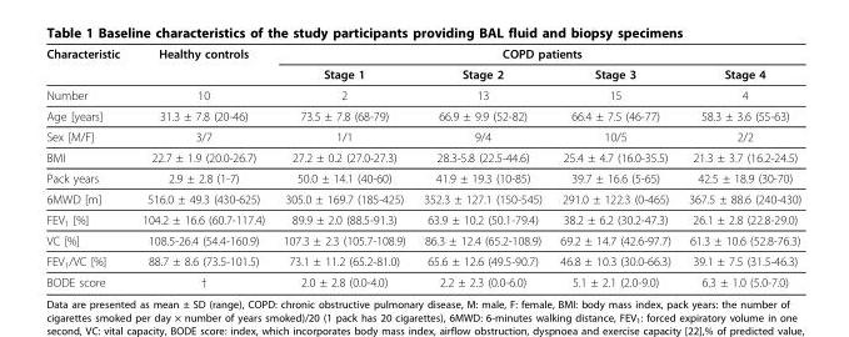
<table><thead><tr><td rowspan="2">Characteristic</td><td rowspan="2">Healthy controls</td><td colspan="4">COPD patients</td></tr><tr><td>Stage 1</td><td>Stage 2</td><td>Stage 3</td><td>Stage 4</td></tr></thead><tbody><tr><td>Number</td><td>10</td><td>2</td><td>13</td><td>15</td><td>4</td></tr><tr><td>Age [years]</td><td>31.3 ± 7.8 (20-46)</td><td>73.5 ± 7.8 (68-79)</td><td>66.9 ± 9.9 (52-82)</td><td>66.4 ± 7.5 (46-77)</td><td>58.3 ± 3.6 (55-63)</td></tr><tr><td>Sex [M/F]</td><td>3/7</td><td>1/1</td><td>9/4</td><td>10/5</td><td>2/2</td></tr><tr><td>BMI</td><td>22.7 ± 1.9 (20.0-26.7)</td><td>27.2 ± 0.2 (27.0-27.3)</td><td>28.3-5.8 (22.5-44.6)</td><td>25.4 ± 4.7 (16.0-35.5)</td><td>21.3 ± 3.7 (16.2-24.5)</td></tr><tr><td>Pack years</td><td>2.9 ± 2.8 (1-7)</td><td>50.0 ± 14.1 (40-60)</td><td>41.9 ± 19.3 (10-85)</td><td>39.7 ± 16.6 (5-65)</td><td>42.5 ± 18.9 (30-70)</td></tr><tr><td>6MWD [m]</td><td>516.0 ± 49.3 (430-625)</td><td>305.0 ± 169.7 (185-425)</td><td>352.3 ± 127.1 (150-545)</td><td>291.0 ± 122.3 (0-465)</td><td>367.5 ± 88.6 (240-430)</td></tr><tr><td>FEV<sub>1</sub> [%]</td><td>104.2 ± 16.6 (60.7-117.4)</td><td>89.9 ± 2.0 (88.5-91.3)</td><td>63.9 ± 10.2 (50.1-79.4)</td><td>38.2 ± 6.2 (30.2-47.3)</td><td>26.1 ± 2.8 (22.8-29.0)</td></tr><tr><td>VC [%]</td><td>108.5-26.4 (54.4-160.9)</td><td>107.3 ± 2.3 (105.7-108.9)</td><td>86.3 ± 12.4 (65.2-108.9)</td><td>69.2 ± 14.7 (42.6-97.7)</td><td>61.3 ± 10.6 (52.8-76.3)</td></tr><tr><td>FEV<sub>1</sub>/VC [%]</td><td>88.7 ± 8.6 (73.5-101.5)</td><td>73.1 ± 11.2 (65.2-81.0)</td><td>65.6 ± 12.6 (49.5-90.7)</td><td>46.8 ± 10.3 (30.0-66.3)</td><td>39.1 ± 7.5 (31.5-46.3)</td></tr><tr><td>BODE score</td><td>†</td><td>2.0 ± 2.8 (0.0-4.0)</td><td>2.2 ± 2.3 (0.0-6.0)</td><td>5.1 ± 2.1 (2.0-9.0)</td><td>6.3 ± 1.0 (5.0-7.0)</td></tr></tbody></table>